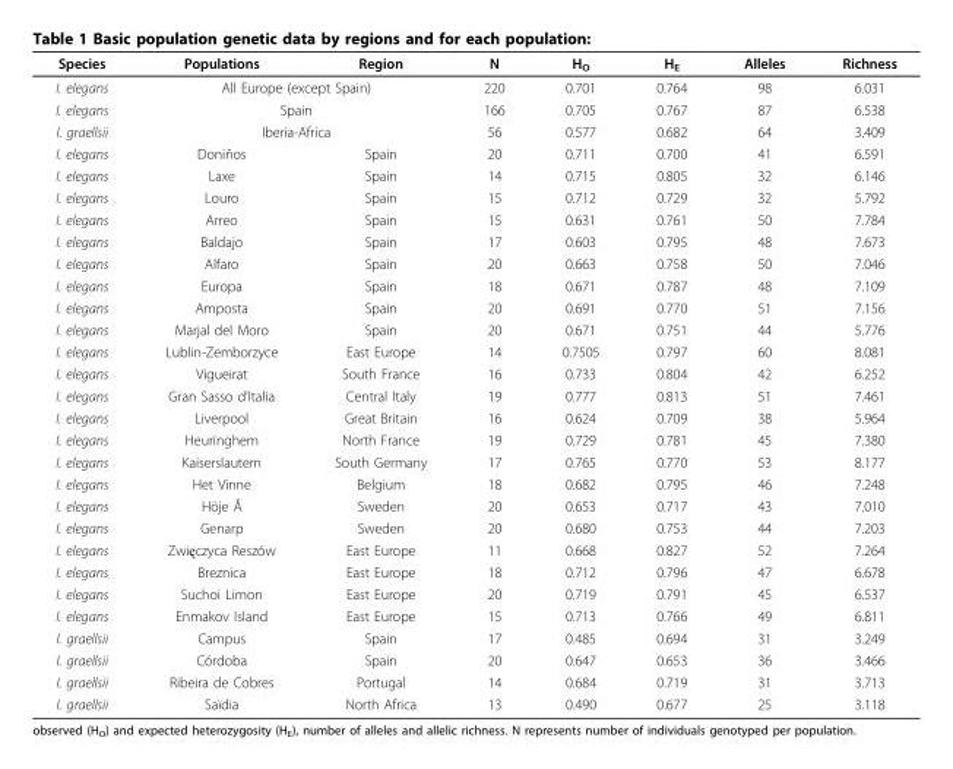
<table><thead><tr><td>Species</td><td>Populations</td><td>Region</td><td>N</td><td>H<sub>O</sub></td><td>H<sub>E</sub></td><td>Alleles</td><td>Richness</td></tr></thead><tbody><tr><td>I. elegans</td><td colspan="2">All Europe (except Spain)</td><td>220</td><td>0.701</td><td>0.764</td><td>98</td><td>6.031</td></tr><tr><td>I. elegans</td><td colspan="2">Spain</td><td>166</td><td>0.705</td><td>0.767</td><td>87</td><td>6.538</td></tr><tr><td>I. graellsii</td><td colspan="2">Iberia-Africa</td><td>56</td><td>0.577</td><td>0.682</td><td>64</td><td>3.409</td></tr><tr><td>I. elegans</td><td>Doniños</td><td>Spain</td><td>20</td><td>0.711</td><td>0.700</td><td>41</td><td>6.591</td></tr><tr><td>I. elegans</td><td>Laxe</td><td>Spain</td><td>14</td><td>0.715</td><td>0.805</td><td>32</td><td>6.146</td></tr><tr><td>I. elegans</td><td>Louro</td><td>Spain</td><td>15</td><td>0.712</td><td>0.729</td><td>32</td><td>5.792</td></tr><tr><td>I. elegans</td><td>Arreo</td><td>Spain</td><td>15</td><td>0.631</td><td>0.761</td><td>50</td><td>7.784</td></tr><tr><td>I. elegans</td><td>Baldajo</td><td>Spain</td><td>17</td><td>0.603</td><td>0.795</td><td>48</td><td>7.673</td></tr><tr><td>I. elegans</td><td>Alfaro</td><td>Spain</td><td>20</td><td>0.663</td><td>0.758</td><td>50</td><td>7.046</td></tr><tr><td>I. elegans</td><td>Europa</td><td>Spain</td><td>18</td><td>0.671</td><td>0.787</td><td>48</td><td>7.109</td></tr><tr><td>I. elegans</td><td>Amposta</td><td>Spain</td><td>20</td><td>0.691</td><td>0.770</td><td>51</td><td>7.156</td></tr><tr><td>I. elegans</td><td>Marjal del Moro</td><td>Spain</td><td>20</td><td>0.671</td><td>0.751</td><td>44</td><td>5.776</td></tr><tr><td>I. elegans</td><td>Lublin-Zemborzyce</td><td>East Europe</td><td>14</td><td>0.7505</td><td>0.797</td><td>60</td><td>8.081</td></tr><tr><td>I. elegans</td><td>Vigueirat</td><td>South France</td><td>16</td><td>0.733</td><td>0.804</td><td>42</td><td>6.252</td></tr><tr><td>I. elegans</td><td>Gran Sasso d’Italia</td><td>Central Italy</td><td>19</td><td>0.777</td><td>0.813</td><td>51</td><td>7.461</td></tr><tr><td>I. elegans</td><td>Liverpool</td><td>Great Britain</td><td>16</td><td>0.624</td><td>0.709</td><td>38</td><td>5.964</td></tr><tr><td>I. elegans</td><td>Heuringhem</td><td>North France</td><td>19</td><td>0.729</td><td>0.781</td><td>45</td><td>7.380</td></tr><tr><td>I. elegans</td><td>Kaiserslautern</td><td>South Germany</td><td>17</td><td>0.765</td><td>0.770</td><td>53</td><td>8.177</td></tr><tr><td>I. elegans</td><td>Het Vinne</td><td>Belgium</td><td>18</td><td>0.682</td><td>0.795</td><td>46</td><td>7.248</td></tr><tr><td>I. elegans</td><td>Höje Å</td><td>Sweden</td><td>20</td><td>0.653</td><td>0.717</td><td>43</td><td>7.010</td></tr><tr><td>I. elegans</td><td>Genarp</td><td>Sweden</td><td>20</td><td>0.680</td><td>0.753</td><td>44</td><td>7.203</td></tr><tr><td>I. elegans</td><td>Zwięczyca Reszów</td><td>East Europe</td><td>11</td><td>0.668</td><td>0.827</td><td>52</td><td>7.264</td></tr><tr><td>I. elegans</td><td>Breznica</td><td>East Europe</td><td>18</td><td>0.712</td><td>0.796</td><td>47</td><td>6.678</td></tr><tr><td>I. elegans</td><td>Suchoi Limon</td><td>East Europe</td><td>20</td><td>0.719</td><td>0.791</td><td>45</td><td>6.537</td></tr><tr><td>I. elegans</td><td>Enmakov Island</td><td>East Europe</td><td>15</td><td>0.713</td><td>0.766</td><td>49</td><td>6.811</td></tr><tr><td>I. graellsii</td><td>Campus</td><td>Spain</td><td>17</td><td>0.485</td><td>0.694</td><td>31</td><td>3.249</td></tr><tr><td>I. graellsii</td><td>Córdoba</td><td>Spain</td><td>20</td><td>0.647</td><td>0.653</td><td>36</td><td>3.466</td></tr><tr><td>I. graellsii</td><td>Ribeira de Cobres</td><td>Portugal</td><td>14</td><td>0.684</td><td>0.719</td><td>31</td><td>3.713</td></tr><tr><td>I. graellsii</td><td>Saïdia</td><td>North Africa</td><td>13</td><td>0.490</td><td>0.677</td><td>25</td><td>3.118</td></tr></tbody></table>